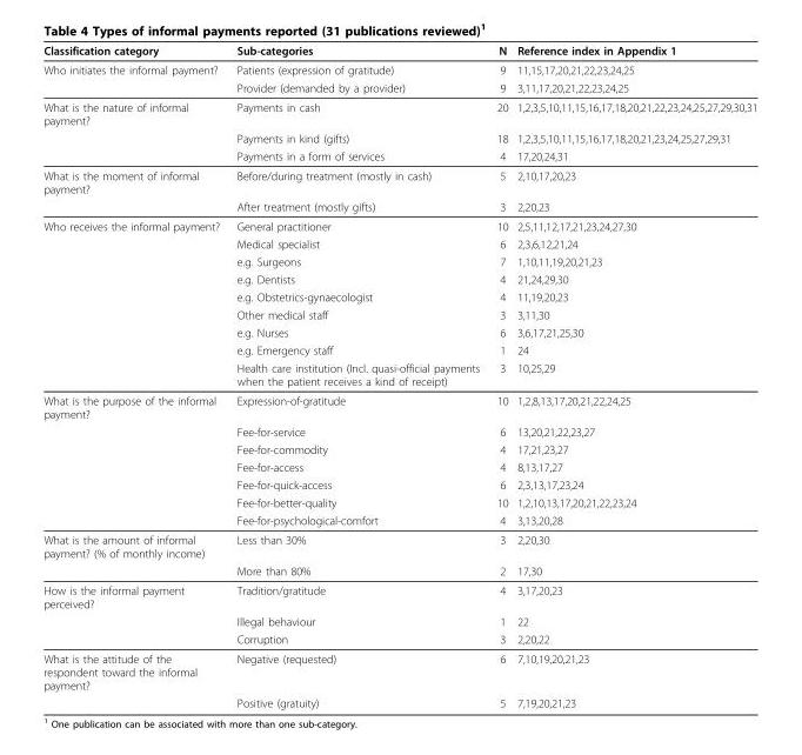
<table><thead><tr><td>Classification category</td><td>Sub-categories</td><td>N</td><td>Reference index in Appendix 1</td></tr></thead><tbody><tr><td rowspan="2">Who initiates the informal payment?</td><td>Patients (expression of gratitude)</td><td>9</td><td>11,15,17,20,21,22,23,24,25</td></tr><tr><td>Provider (demanded by a provider)</td><td>9</td><td>3,11,17,20,21,22,23,24,25</td></tr><tr><td rowspan="3">What is the nature of informal payment?</td><td>Payments in cash</td><td>20</td><td>1,2,3,5,10,11,15,16,17,18,20,21,22,23,24,25,27,29,30,31</td></tr><tr><td>Payments in kind (gifts)</td><td>18</td><td>1,2,3,5,10,11,15,16,17,18,20,21,23,24,25,27,29,31</td></tr><tr><td>Payments in a form of services</td><td>4</td><td>17,20,24,31</td></tr><tr><td rowspan="2">What is the moment of informal payment?</td><td>Before/during treatment (mostly in cash)</td><td>5</td><td>2,10,17,20,23</td></tr><tr><td>After treatment (mostly gifts)</td><td>3</td><td>2,20,23</td></tr><tr><td rowspan="9">Who receives the informal payment?</td><td>General practitioner</td><td>10</td><td>2,5,11,12,17,21,23,24,27,30</td></tr><tr><td>Medical specialist</td><td>6</td><td>2,3,6,12,21,24</td></tr><tr><td>e.g. Surgeons</td><td>7</td><td>1,10,11,19,20,21,23</td></tr><tr><td>e.g. Dentists</td><td>4</td><td>21,24,29,30</td></tr><tr><td>e.g. Obstetrics-gynaecologist</td><td>4</td><td>11,19,20,23</td></tr><tr><td>Other medical staff</td><td>3</td><td>3,11,30</td></tr><tr><td>e.g. Nurses</td><td>6</td><td>3,6,17,21,25,30</td></tr><tr><td>e.g. Emergency staff</td><td>1</td><td>24</td></tr><tr><td>Health care institution (Incl. quasi-official payments when the patient receives a kind of receipt)</td><td>3</td><td>10,25,29</td></tr><tr><td rowspan="7">What is the purpose of the informal payment?</td><td>Expression-of-gratitude</td><td>10</td><td>1,2,8,13,17,20,21,22,24,25</td></tr><tr><td>Fee-for-service</td><td>6</td><td>13,20,21,22,23,27</td></tr><tr><td>Fee-for-commodity</td><td>4</td><td>17,21,23,27</td></tr><tr><td>Fee-for-access</td><td>4</td><td>8,13,17,27</td></tr><tr><td>Fee-for-quick-access</td><td>6</td><td>2,3,13,17,23,24</td></tr><tr><td>Fee-for-better-quality</td><td>10</td><td>1,2,10,13,17,20,21,22,23,24</td></tr><tr><td>Fee-for-psychological-comfort</td><td>4</td><td>3,13,20,28</td></tr><tr><td rowspan="2">What is the amount of informal payment? (% of monthly income)</td><td>Less than 30%</td><td>3</td><td>2,20,30</td></tr><tr><td>More than 80%</td><td>2</td><td>17,30</td></tr><tr><td rowspan="3">How is the informal payment perceived?</td><td>Tradition/gratitude</td><td>4</td><td>3,17,20,23</td></tr><tr><td>Illegal behaviour</td><td>1</td><td>22</td></tr><tr><td>Corruption</td><td>3</td><td>2,20,22</td></tr><tr><td rowspan="2">What is the attitude of the respondent toward the informal payment?</td><td>Negative (requested)</td><td>6</td><td>7,10,19,20,21,23</td></tr><tr><td>Positive (gratuity)</td><td>5</td><td>7,19,20,21,23</td></tr></tbody></table>